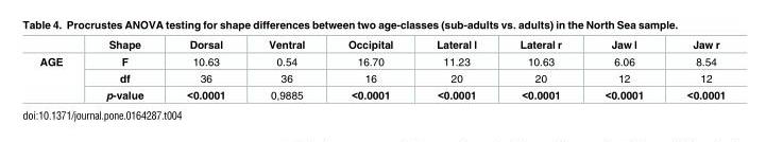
<table><thead><tr><td></td><td>Shape</td><td>Dorsal</td><td>Ventral</td><td>Occipital</td><td>Lateral l</td><td>Lateral r</td><td>Jaw l</td><td>Jaw r</td></tr></thead><tbody><tr><td rowspan="3">AGE</td><td>F</td><td>10.63</td><td>0.54</td><td>16.70</td><td>11.23</td><td>10.63</td><td>6.06</td><td>8.54</td></tr><tr><td>df</td><td>36</td><td>36</td><td>16</td><td>20</td><td>20</td><td>12</td><td>12</td></tr><tr><td>p-value</td><td>&lt;0.0001</td><td>0,9885</td><td>&lt;0.0001</td><td>&lt;0.0001</td><td>&lt;0.0001</td><td>&lt;0.0001</td><td>&lt;0.0001</td></tr></tbody></table>